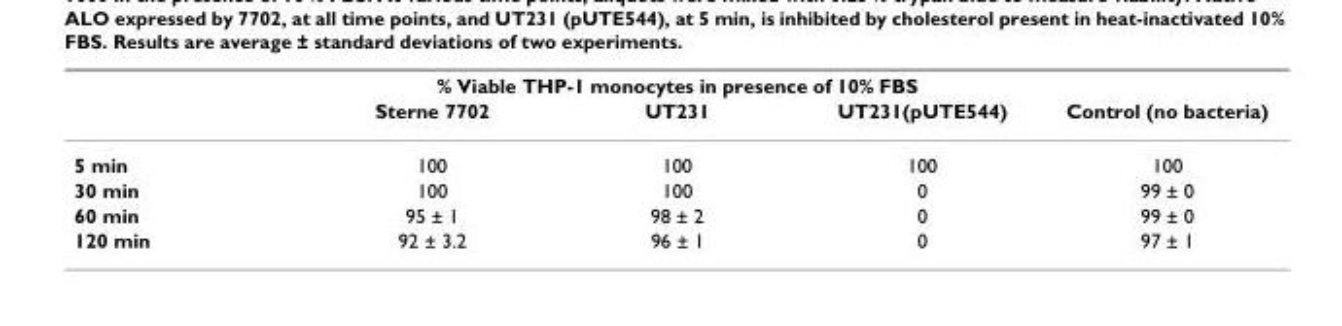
<table><thead><tr><td colspan="5">% Viable THP-1 monocytes in presence of 10% FBS</td></tr><tr><td></td><td>Sterne 7702</td><td>UT231</td><td>UT231(pUTE544)</td><td>Control (no bacteria)</td></tr></thead><tbody><tr><td>5 min</td><td>100</td><td>100</td><td>100</td><td>100</td></tr><tr><td>30 min</td><td>100</td><td>100</td><td>0</td><td>99 ± 0</td></tr><tr><td>60 min</td><td>95 ± 1</td><td>98 ± 2</td><td>0</td><td>99 ± 0</td></tr><tr><td>120 min</td><td>92 ± 3.2</td><td>96 ± 1</td><td>0</td><td>97 ± 1</td></tr></tbody></table>